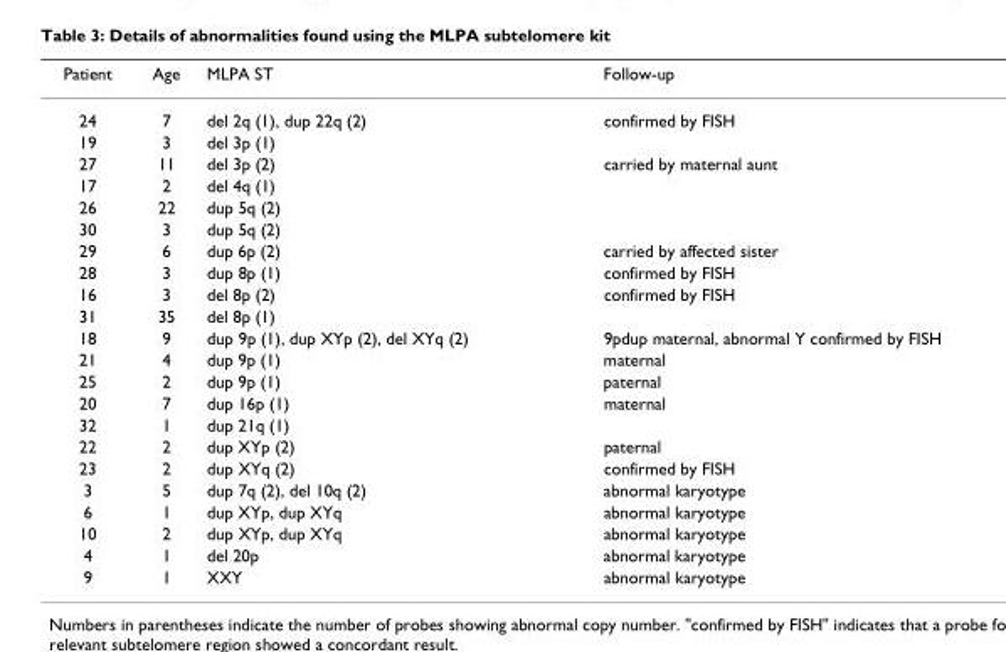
<table><thead><tr><td>Patient</td><td>Age</td><td>MLPA ST</td><td>Follow-up</td></tr></thead><tbody><tr><td>24</td><td>7</td><td>del 2q (1), dup 22q (2)</td><td>confirmed by FISH</td></tr><tr><td>19</td><td>3</td><td>del 3p (1)</td><td></td></tr><tr><td>27</td><td>11</td><td>del 3p (2)</td><td>carried by maternal aunt</td></tr><tr><td>17</td><td>2</td><td>del 4q (1)</td><td></td></tr><tr><td>26</td><td>22</td><td>dup 5q (2)</td><td></td></tr><tr><td>30</td><td>3</td><td>dup 5q (2)</td><td></td></tr><tr><td>29</td><td>6</td><td>dup 6p (2)</td><td>carried by affected sister</td></tr><tr><td>28</td><td>3</td><td>dup 8p (1)</td><td>confirmed by FISH</td></tr><tr><td>16</td><td>3</td><td>del 8p (2)</td><td>confirmed by FISH</td></tr><tr><td>31</td><td>35</td><td>del 8p (1)</td><td></td></tr><tr><td>18</td><td>9</td><td>dup 9p (1), dup XYp (2), del XYq (2)</td><td>9pdup maternal, abnormal Y confirmed by FISH</td></tr><tr><td>21</td><td>4</td><td>dup 9p (1)</td><td>maternal</td></tr><tr><td>25</td><td>2</td><td>dup 9p (1)</td><td>paternal</td></tr><tr><td>20</td><td>7</td><td>dup 16p (1)</td><td>maternal</td></tr><tr><td>32</td><td>1</td><td>dup 21q (1)</td><td></td></tr><tr><td>22</td><td>2</td><td>dup XYp (2)</td><td>paternal</td></tr><tr><td>23</td><td>2</td><td>dup XYq (2)</td><td>confirmed by FISH</td></tr><tr><td>3</td><td>5</td><td>dup 7q (2), del 10q (2)</td><td>abnormal karyotype</td></tr><tr><td>6</td><td>1</td><td>dup XYp, dup XYq</td><td>abnormal karyotype</td></tr><tr><td>10</td><td>2</td><td>dup XYp, dup XYq</td><td>abnormal karyotype</td></tr><tr><td>4</td><td>1</td><td>del 20p</td><td>abnormal karyotype</td></tr><tr><td>9</td><td>1</td><td>XXY</td><td>abnormal karyotype</td></tr></tbody></table>